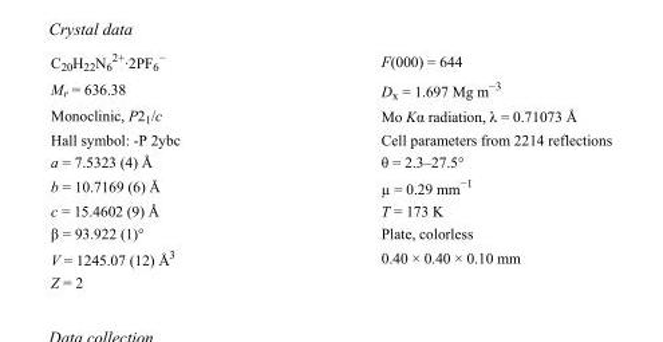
<table><tbody><tr><td>C<sub>20</sub>H<sub>22</sub>N<sub>6</sub> <sup>2+</sup>·2PF<sub>6</sub> <sup>−</sup></td><td>F(000) = 644</td></tr><tr><td>M<sub>r</sub> = 636.38</td><td>D<sub>x</sub> = 1.697 Mg m<sup>−3</sup></td></tr><tr><td>Monoclinic, P2<sub>1</sub>/c</td><td>Mo Kα radiation, λ = 0.71073 Å</td></tr><tr><td>Hall symbol: -P 2ybc</td><td>Cell parameters from 2214 reflections</td></tr><tr><td>a = 7.5323 (4) Å</td><td>θ = 2.3–27.5°</td></tr><tr><td>b = 10.7169 (6) Å</td><td>µ = 0.29 mm<sup>−1</sup></td></tr><tr><td>c = 15.4602 (9) Å</td><td>T = 173 K</td></tr><tr><td>β = 93.922 (1)°</td><td>Plate, colorless</td></tr><tr><td>V = 1245.07 (12) Å<sup>3</sup></td><td>0.40 × 0.40 × 0.10 mm</td></tr><tr><td>Z = 2</td><td></td></tr></tbody></table>